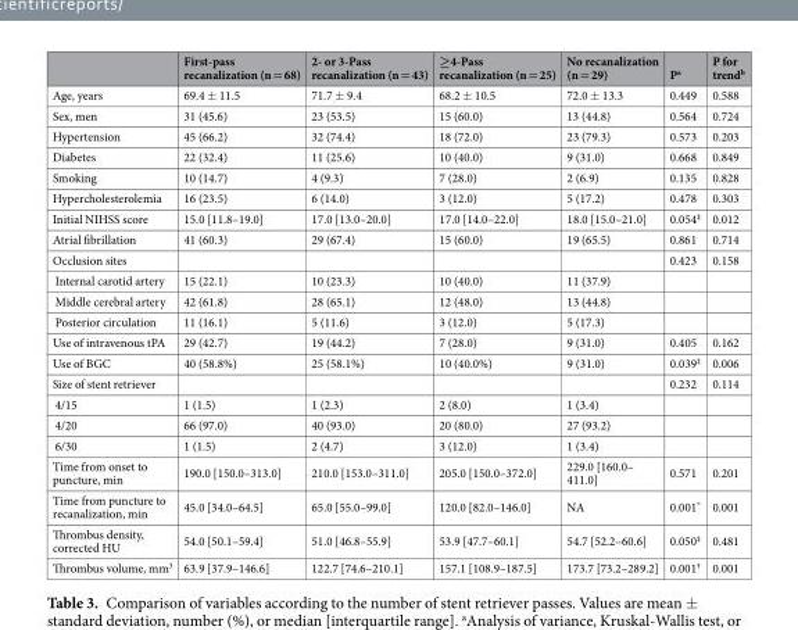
<table><thead><tr><td></td><td>First-pass recanalization (n = 68)</td><td>2- or 3-Pass recanalization (n = 43)</td><td>≥4-Pass recanalization (n = 25)</td><td>No recanalization (n = 29)</td><td>P<sup>a</sup></td><td>P for trend<sup>b</sup></td></tr></thead><tbody><tr><td>Age, years</td><td>69.4 ± 11.5</td><td>71.7 ± 9.4</td><td>68.2 ± 10.5</td><td>72.0 ± 13.3</td><td>0.449</td><td>0.588</td></tr><tr><td>Sex, men</td><td>31 (45.6)</td><td>23 (53.5)</td><td>15 (60.0)</td><td>13 (44.8)</td><td>0.564</td><td>0.724</td></tr><tr><td>Hypertension</td><td>45 (66.2)</td><td>32 (74.4)</td><td>18 (72.0)</td><td>23 (79.3)</td><td>0.573</td><td>0.203</td></tr><tr><td>Diabetes</td><td>22 (32.4)</td><td>11 (25.6)</td><td>10 (40.0)</td><td>9 (31.0)</td><td>0.668</td><td>0.849</td></tr><tr><td>Smoking</td><td>10 (14.7)</td><td>4 (9.3)</td><td>7 (28.0)</td><td>2 (6.9)</td><td>0.135</td><td>0.828</td></tr><tr><td>Hypercholesterolemia</td><td>16 (23.5)</td><td>6 (14.0)</td><td>3 (12.0)</td><td>5 (17.2)</td><td>0.478</td><td>0.303</td></tr><tr><td>Initial NIHSS score</td><td>15.0 [11.8–19.0]</td><td>17.0 [13.0–20.0]</td><td>17.0 [14.0–22.0]</td><td>18.0 [15.0–21.0]</td><td>0.054<sup>‡</sup></td><td>0.012</td></tr><tr><td>Atrial fibrillation</td><td>41 (60.3)</td><td>29 (67.4)</td><td>15 (60.0)</td><td>19 (65.5)</td><td>0.861</td><td>0.714</td></tr><tr><td>Occlusion sites</td><td></td><td></td><td></td><td></td><td>0.423</td><td>0.158</td></tr><tr><td>Internal carotid artery</td><td>15 (22.1)</td><td>10 (23.3)</td><td>10 (40.0)</td><td>11 (37.9)</td><td></td><td></td></tr><tr><td>Middle cerebral artery</td><td>42 (61.8)</td><td>28 (65.1)</td><td>12 (48.0)</td><td>13 (44.8)</td><td></td><td></td></tr><tr><td>Posterior circulation</td><td>11 (16.1)</td><td>5 (11.6)</td><td>3 (12.0)</td><td>5 (17.3)</td><td></td><td></td></tr><tr><td>Use of intravenous tPA</td><td>29 (42.7)</td><td>19 (44.2)</td><td>7 (28.0)</td><td>9 (31.0)</td><td>0.405</td><td>0.162</td></tr><tr><td>Use of BGC</td><td>40 (58.8%)</td><td>25 (58.1%)</td><td>10 (40.0%)</td><td>9 (31.0)</td><td>0.039<sup>‡</sup></td><td>0.006</td></tr><tr><td>Size of stent retriever</td><td></td><td></td><td></td><td></td><td>0.232</td><td>0.114</td></tr><tr><td>4/15</td><td>1 (1.5)</td><td>1 (2.3)</td><td>2 (8.0)</td><td>1 (3.4)</td><td></td><td></td></tr><tr><td>4/20</td><td>66 (97.0)</td><td>40 (93.0)</td><td>20 (80.0)</td><td>27 (93.2)</td><td></td><td></td></tr><tr><td>6/30</td><td>1 (1.5)</td><td>2 (4.7)</td><td>3 (12.0)</td><td>1 (3.4)</td><td></td><td></td></tr><tr><td>Time from onset to puncture, min</td><td>190.0 [150.0–313.0]</td><td>210.0 [153.0–311.0]</td><td>205.0 [150.0–372.0]</td><td>229.0 [160.0– 411.0]</td><td>0.571</td><td>0.201</td></tr><tr><td>Time from puncture to recanalization, min</td><td>45.0 [34.0–64.5]</td><td>65.0 [55.0–99.0]</td><td>120.0 [82.0–146.0]</td><td>NA</td><td>0.001*</td><td>0.001</td></tr><tr><td>Thrombus density, corrected HU</td><td>54.0 [50.1–59.4]</td><td>51.0 [46.8–55.9]</td><td>53.9 [47.7–60.1]</td><td>54.7 [52.2–60.6]</td><td>0.050<sup>‡</sup></td><td>0.481</td></tr><tr><td>Thrombus volume, mm<sup>3</sup></td><td>63.9 [37.9–146.6]</td><td>122.7 [74.6–210.1]</td><td>157.1 [108.9–187.5]</td><td>173.7 [73.2–289.2]</td><td>0.001<sup>†</sup></td><td>0.001</td></tr></tbody></table>